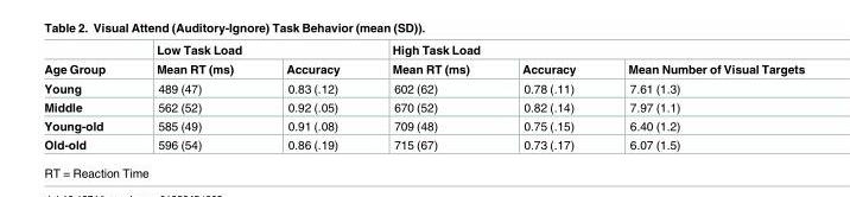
<table><thead><tr><td rowspan="2">Age Group</td><td colspan="2">Low Task Load</td><td colspan="3">High Task Load</td></tr><tr><td>Mean RT (ms)</td><td>Accuracy</td><td>Mean RT (ms)</td><td>Accuracy</td><td>Mean Number of Visual Targets</td></tr></thead><tbody><tr><td>Young</td><td>489 (47)</td><td>0.83 (.12)</td><td>602 (62)</td><td>0.78 (.11)</td><td>7.61 (1.3)</td></tr><tr><td>Middle</td><td>562 (52)</td><td>0.92 (.05)</td><td>670 (52)</td><td>0.82 (.14)</td><td>7.97 (1.1)</td></tr><tr><td>Young-old</td><td>585 (49)</td><td>0.91 (.08)</td><td>709 (48)</td><td>0.75 (.15)</td><td>6.40 (1.2)</td></tr><tr><td>Old-old</td><td>596 (54)</td><td>0.86 (.19)</td><td>715 (67)</td><td>0.73 (.17)</td><td>6.07 (1.5)</td></tr></tbody></table>